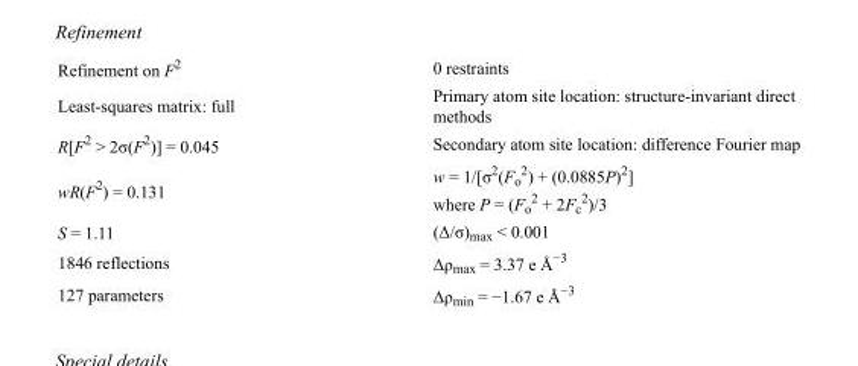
<table><tbody><tr><td>Refinement on F<sup>2</sup></td><td>0 restraints</td></tr><tr><td>Least-squares matrix: full</td><td>Primary atom site location: structure-invariant direct methods</td></tr><tr><td>R[F<sup>2</sup> &gt; 2σ(F<sup>2</sup>)] = 0.045</td><td>Secondary atom site location: difference Fourier map</td></tr><tr><td>wR(F<sup>2</sup>) = 0.131</td><td>w = 1/[σ<sup>2</sup>(F<sub>o</sub> <sup>2</sup>) + (0.0885P)<sup>2</sup>] where P = (F<sub>o</sub> <sup>2</sup> + 2F<sub>c</sub> <sup>2</sup>)/3</td></tr><tr><td>S = 1.11</td><td>(Δ/σ)<sub>max</sub> &lt; 0.001</td></tr><tr><td>1846 reflections</td><td>Δρ<sub>max</sub> = 3.37 e Å<sup>−3</sup></td></tr><tr><td>127 parameters</td><td>Δρ<sub>min</sub> = −1.67 e Å<sup>−3</sup></td></tr></tbody></table>